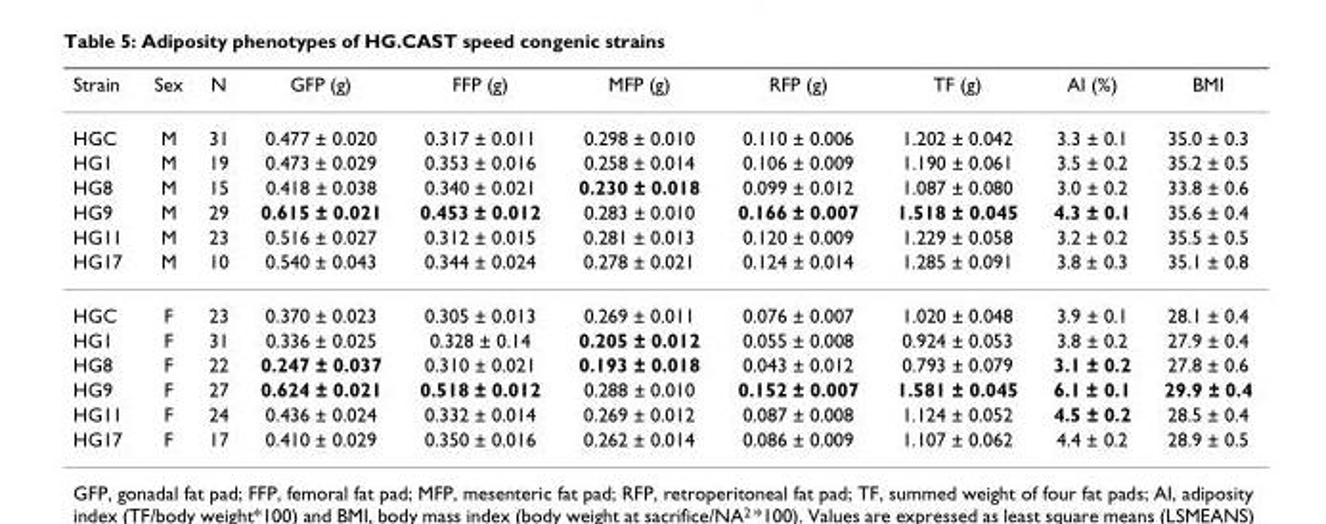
<table><thead><tr><td>Strain</td><td>Sex</td><td>N</td><td>GFP (g)</td><td>FFP (g)</td><td>MFP (g)</td><td>RFP (g)</td><td>TF (g)</td><td>AI (%)</td><td>BMI</td></tr></thead><tbody><tr><td>HGC</td><td>M</td><td>31</td><td>0.477 ± 0.020</td><td>0.317 ± 0.011</td><td>0.298 ± 0.010</td><td>0.110 ± 0.006</td><td>1.202 ± 0.042</td><td>3.3 ± 0.1</td><td>35.0 ± 0.3</td></tr><tr><td>HG1</td><td>M</td><td>19</td><td>0.473 ± 0.029</td><td>0.353 ± 0.016</td><td>0.258 ± 0.014</td><td>0.106 ± 0.009</td><td>1.190 ± 0.061</td><td>3.5 ± 0.2</td><td>35.2 ± 0.5</td></tr><tr><td>HG8</td><td>M</td><td>15</td><td>0.418 ± 0.038</td><td>0.340 ± 0.021</td><td>0.230 ± 0.018</td><td>0.099 ± 0.012</td><td>1.087 ± 0.080</td><td>3.0 ± 0.2</td><td>33.8 ± 0.6</td></tr><tr><td>HG9</td><td>M</td><td>29</td><td>0.615 ± 0.021</td><td>0.453 ± 0.012</td><td>0.283 ± 0.010</td><td>0.166 ± 0.007</td><td>1.518 ± 0.045</td><td>4.3 ± 0.1</td><td>35.6 ± 0.4</td></tr><tr><td>HG11</td><td>M</td><td>23</td><td>0.516 ± 0.027</td><td>0.312 ± 0.015</td><td>0.281 ± 0.013</td><td>0.120 ± 0.009</td><td>1.229 ± 0.058</td><td>3.2 ± 0.2</td><td>35.5 ± 0.5</td></tr><tr><td>HG17</td><td>M</td><td>10</td><td>0.540 ± 0.043</td><td>0.344 ± 0.024</td><td>0.278 ± 0.021</td><td>0.124 ± 0.014</td><td>1.285 ± 0.091</td><td>3.8 ± 0.3</td><td>35.1 ± 0.8</td></tr><tr><td>HGC</td><td>F</td><td>23</td><td>0.370 ± 0.023</td><td>0.305 ± 0.013</td><td>0.269 ± 0.011</td><td>0.076 ± 0.007</td><td>1.020 ± 0.048</td><td>3.9 ± 0.1</td><td>28.1 ± 0.4</td></tr><tr><td>HG1</td><td>F</td><td>31</td><td>0.336 ± 0.025</td><td>0.328 ± 0.14</td><td>0.205 ± 0.012</td><td>0.055 ± 0.008</td><td>0.924 ± 0.053</td><td>3.8 ± 0.2</td><td>27.9 ± 0.4</td></tr><tr><td>HG8</td><td>F</td><td>22</td><td>0.247 ± 0.037</td><td>0.310 ± 0.021</td><td>0.193 ± 0.018</td><td>0.043 ± 0.012</td><td>0.793 ± 0.079</td><td>3.1 ± 0.2</td><td>27.8 ± 0.6</td></tr><tr><td>HG9</td><td>F</td><td>27</td><td>0.624 ± 0.021</td><td>0.518 ± 0.012</td><td>0.288 ± 0.010</td><td>0.152 ± 0.007</td><td>1.581 ± 0.045</td><td>6.1 ± 0.1</td><td>29.9 ± 0.4</td></tr><tr><td>HG11</td><td>F</td><td>24</td><td>0.436 ± 0.024</td><td>0.332 ± 0.014</td><td>0.269 ± 0.012</td><td>0.087 ± 0.008</td><td>1.124 ± 0.052</td><td>4.5 ± 0.2</td><td>28.5 ± 0.4</td></tr><tr><td>HG17</td><td>F</td><td>17</td><td>0.410 ± 0.029</td><td>0.350 ± 0.016</td><td>0.262 ± 0.014</td><td>0.086 ± 0.009</td><td>1.107 ± 0.062</td><td>4.4 ± 0.2</td><td>28.9 ± 0.5</td></tr></tbody></table>